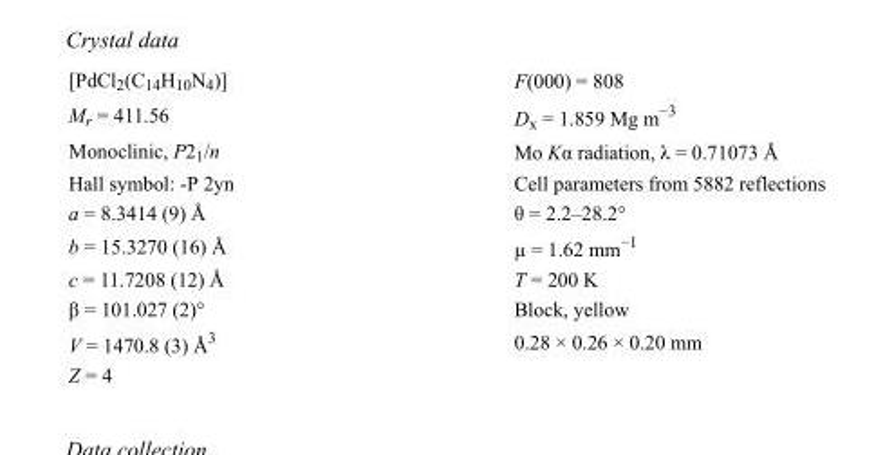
<table><tbody><tr><td>[PdCl<sub>2</sub>(C<sub>14</sub>H<sub>10</sub>N<sub>4</sub>)]</td><td>F(000) = 808</td></tr><tr><td>M<sub>r</sub> = 411.56</td><td>D<sub>x</sub> = 1.859 Mg m<sup>−3</sup></td></tr><tr><td>Monoclinic, P2<sub>1</sub>/n</td><td>Mo Kα radiation, λ = 0.71073 Å</td></tr><tr><td>Hall symbol: -P 2yn</td><td>Cell parameters from 5882 reflections</td></tr><tr><td>a = 8.3414 (9) Å</td><td>θ = 2.2–28.2°</td></tr><tr><td>b = 15.3270 (16) Å</td><td>µ = 1.62 mm<sup>−1</sup></td></tr><tr><td>c = 11.7208 (12) Å</td><td>T = 200 K</td></tr><tr><td>β = 101.027 (2)°</td><td>Block, yellow</td></tr><tr><td>V = 1470.8 (3) Å<sup>3</sup></td><td>0.28 × 0.26 × 0.20 mm</td></tr><tr><td>Z = 4</td><td></td></tr></tbody></table>